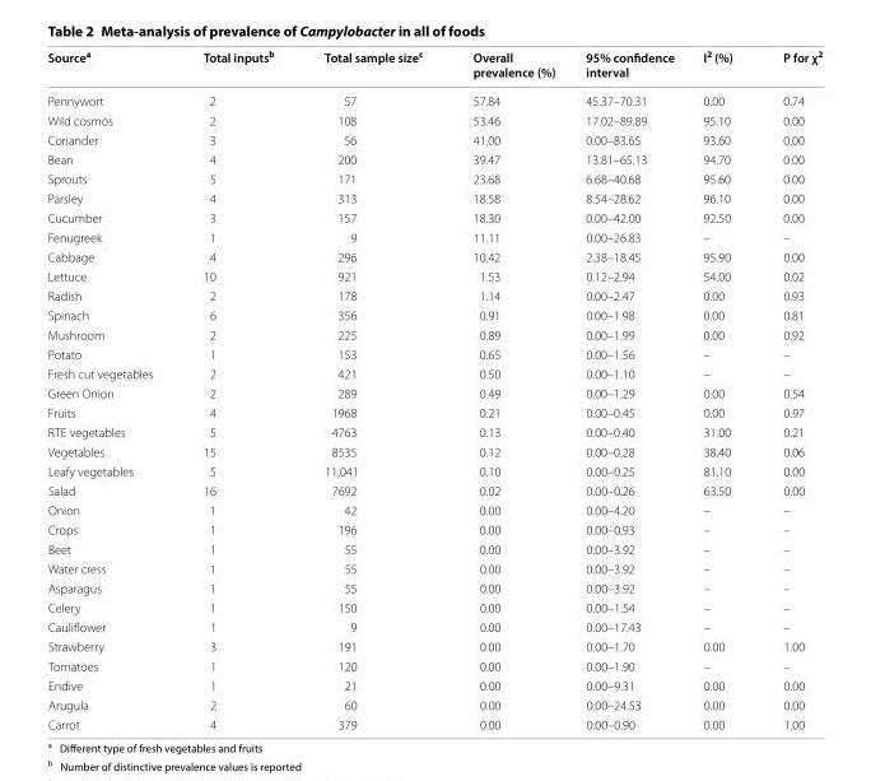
<table><thead><tr><td>Source<sup>a</sup></td><td>Total inputs<sup>b</sup></td><td>Total sample size<sup>c</sup></td><td>Overall prevalence (%)</td><td>95% confidence interval</td><td>I<sup>2</sup> (%)</td><td>P for χ<sup>2</sup></td></tr></thead><tbody><tr><td>Pennywort</td><td>2</td><td>57</td><td>57.84</td><td>45.37–70.31</td><td>0.00</td><td>0.74</td></tr><tr><td>Wild cosmos</td><td>2</td><td>108</td><td>53.46</td><td>17.02–89.89</td><td>95.10</td><td>0.00</td></tr><tr><td>Coriander</td><td>3</td><td>56</td><td>41.00</td><td>0.00–83.65</td><td>93.60</td><td>0.00</td></tr><tr><td>Bean</td><td>4</td><td>200</td><td>39.47</td><td>13.81–65.13</td><td>94.70</td><td>0.00</td></tr><tr><td>Sprouts</td><td>5</td><td>171</td><td>23.68</td><td>6.68–40.68</td><td>95.60</td><td>0.00</td></tr><tr><td>Parsley</td><td>4</td><td>313</td><td>18.58</td><td>8.54–28.62</td><td>96.10</td><td>0.00</td></tr><tr><td>Cucumber</td><td>3</td><td>157</td><td>18.30</td><td>0.00–42.00</td><td>92.50</td><td>0.00</td></tr><tr><td>Fenugreek</td><td>1</td><td>9</td><td>11.11</td><td>0.00–26.83</td><td>–</td><td>–</td></tr><tr><td>Cabbage</td><td>4</td><td>296</td><td>10.42</td><td>2.38–18.45</td><td>95.90</td><td>0.00</td></tr><tr><td>Lettuce</td><td>10</td><td>921</td><td>1.53</td><td>0.12–2.94</td><td>54.00</td><td>0.02</td></tr><tr><td>Radish</td><td>2</td><td>178</td><td>1.14</td><td>0.00–2.47</td><td>0.00</td><td>0.93</td></tr><tr><td>Spinach</td><td>6</td><td>356</td><td>0.91</td><td>0.00–1.98</td><td>0.00</td><td>0.81</td></tr><tr><td>Mushroom</td><td>2</td><td>225</td><td>0.89</td><td>0.00–1.99</td><td>0.00</td><td>0.92</td></tr><tr><td>Potato</td><td>1</td><td>153</td><td>0.65</td><td>0.00–1.56</td><td>–</td><td>–</td></tr><tr><td>Fresh cut vegetables</td><td>2</td><td>421</td><td>0.50</td><td>0.00–1.10</td><td>–</td><td>–</td></tr><tr><td>Green Onion</td><td>2</td><td>289</td><td>0.49</td><td>0.00–1.29</td><td>0.00</td><td>0.54</td></tr><tr><td>Fruits</td><td>4</td><td>1968</td><td>0.21</td><td>0.00–0.45</td><td>0.00</td><td>0.97</td></tr><tr><td>RTE vegetables</td><td>5</td><td>4763</td><td>0.13</td><td>0.00–0.40</td><td>31.00</td><td>0.21</td></tr><tr><td>Vegetables</td><td>15</td><td>8535</td><td>0.12</td><td>0.00–0.28</td><td>38.40</td><td>0.06</td></tr><tr><td>Leafy vegetables</td><td>5</td><td>11,041</td><td>0.10</td><td>0.00–0.25</td><td>81.10</td><td>0.00</td></tr><tr><td>Salad</td><td>16</td><td>7692</td><td>0.02</td><td>0.00–0.26</td><td>63.50</td><td>0.00</td></tr><tr><td>Onion</td><td>1</td><td>42</td><td>0.00</td><td>0.00–4.20</td><td>–</td><td>–</td></tr><tr><td>Crops</td><td>1</td><td>196</td><td>0.00</td><td>0.00–0.93</td><td>–</td><td>–</td></tr><tr><td>Beet</td><td>1</td><td>55</td><td>0.00</td><td>0.00–3.92</td><td>–</td><td>–</td></tr><tr><td>Water cress</td><td>1</td><td>55</td><td>0.00</td><td>0.00–3.92</td><td>–</td><td>–</td></tr><tr><td>Asparagus</td><td>1</td><td>55</td><td>0.00</td><td>0.00–3.92</td><td>–</td><td>–</td></tr><tr><td>Celery</td><td>1</td><td>150</td><td>0.00</td><td>0.00–1.54</td><td>–</td><td>–</td></tr><tr><td>Cauliflower</td><td>1</td><td>9</td><td>0.00</td><td>0.00–17.43</td><td>–</td><td>–</td></tr><tr><td>Strawberry</td><td>3</td><td>191</td><td>0.00</td><td>0.00–1.70</td><td>0.00</td><td>1.00</td></tr><tr><td>Tomatoes</td><td>1</td><td>120</td><td>0.00</td><td>0.00–1.90</td><td>–</td><td>–</td></tr><tr><td>Endive</td><td>1</td><td>21</td><td>0.00</td><td>0.00–9.31</td><td>0.00</td><td>0.00</td></tr><tr><td>Arugula</td><td>2</td><td>60</td><td>0.00</td><td>0.00–24.53</td><td>0.00</td><td>0.00</td></tr><tr><td>Carrot</td><td>4</td><td>379</td><td>0.00</td><td>0.00–0.90</td><td>0.00</td><td>1.00</td></tr></tbody></table>